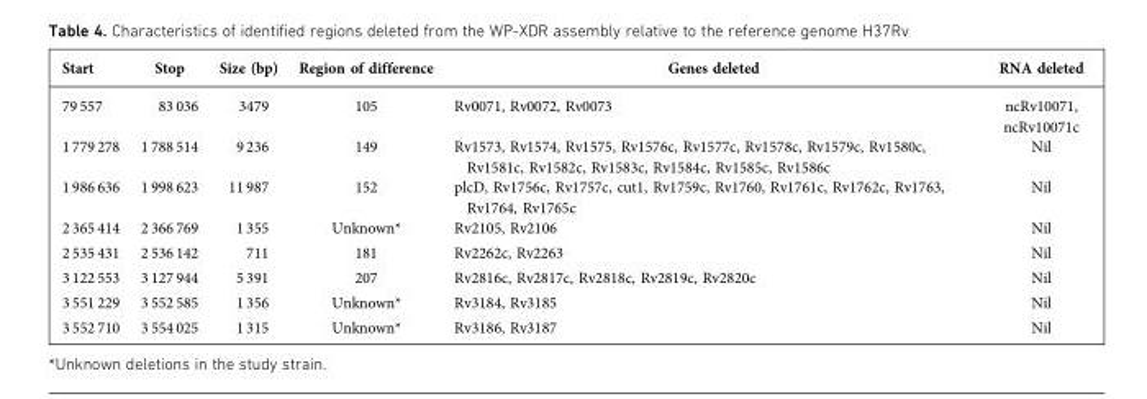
<table><thead><tr><td>Start</td><td>Stop</td><td>Size (bp)</td><td>Region of difference</td><td>Genes deleted</td><td>RNA deleted</td></tr></thead><tbody><tr><td>79 557</td><td>83 036</td><td>3479</td><td>105</td><td>Rv0071, Rv0072, Rv0073</td><td>ncRv10071, ncRv10071c</td></tr><tr><td>1 779 278</td><td>1 788 514</td><td>9 236</td><td>149</td><td>Rv1573, Rv1574, Rv1575, Rv1576c, Rv1577c, Rv1578c, Rv1579c, Rv1580c, Rv1581c, Rv1582c, Rv1583c, Rv1584c, Rv1585c, Rv1586c</td><td>Nil</td></tr><tr><td>1 986 636</td><td>1 998 623</td><td>11 987</td><td>152</td><td>plcD, Rv1756c, Rv1757c, cut1, Rv1759c, Rv1760, Rv1761c, Rv1762c, Rv1763, Rv1764, Rv1765c</td><td>Nil</td></tr><tr><td>2 365 414</td><td>2 366 769</td><td>1 355</td><td>Unknown*</td><td>Rv2105, Rv2106</td><td>Nil</td></tr><tr><td>2 535 431</td><td>2 536 142</td><td>711</td><td>181</td><td>Rv2262c, Rv2263</td><td>Nil</td></tr><tr><td>3 122 553</td><td>3 127 944</td><td>5 391</td><td>207</td><td>Rv2816c, Rv2817c, Rv2818c, Rv2819c, Rv2820c</td><td>Nil</td></tr><tr><td>3 551 229</td><td>3 552 585</td><td>1 356</td><td>Unknown*</td><td>Rv3184, Rv3185</td><td>Nil</td></tr><tr><td>3 552 710</td><td>3 554 025</td><td>1 315</td><td>Unknown*</td><td>Rv3186, Rv3187</td><td>Nil</td></tr></tbody></table>